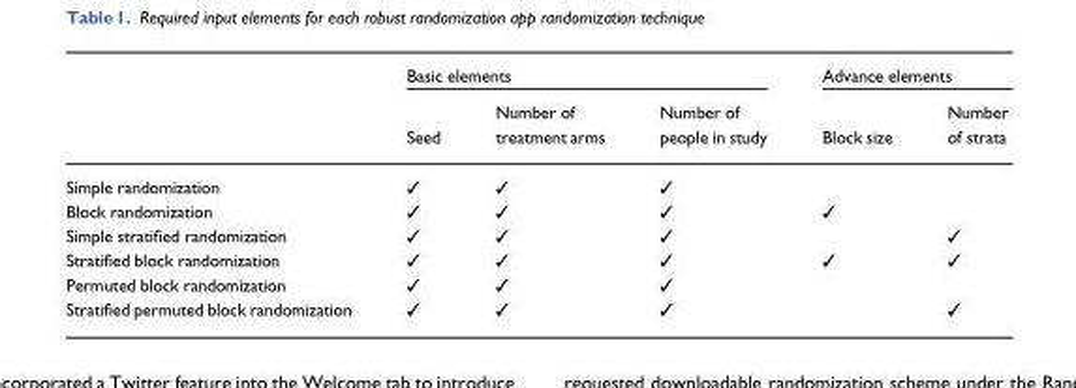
<table><thead><tr><td rowspan="2"></td><td colspan="3">Basic elements</td><td colspan="2">Advance elements</td></tr><tr><td>Seed</td><td>Number of treatment arms</td><td>Number of people in study</td><td>Block size</td><td>Number of strata</td></tr></thead><tbody><tr><td>Simple randomization</td><td>✓</td><td>✓</td><td>✓</td><td></td><td></td></tr><tr><td>Block randomization</td><td>✓</td><td>✓</td><td>✓</td><td>✓</td><td></td></tr><tr><td>Simple stratified randomization</td><td>✓</td><td>✓</td><td>✓</td><td></td><td>✓</td></tr><tr><td>Stratified block randomization</td><td>✓</td><td>✓</td><td>✓</td><td>✓</td><td>✓</td></tr><tr><td>Permuted block randomization</td><td>✓</td><td>✓</td><td>✓</td><td></td><td></td></tr><tr><td>Stratified permuted block randomization</td><td>✓</td><td>✓</td><td>✓</td><td></td><td>✓</td></tr></tbody></table>